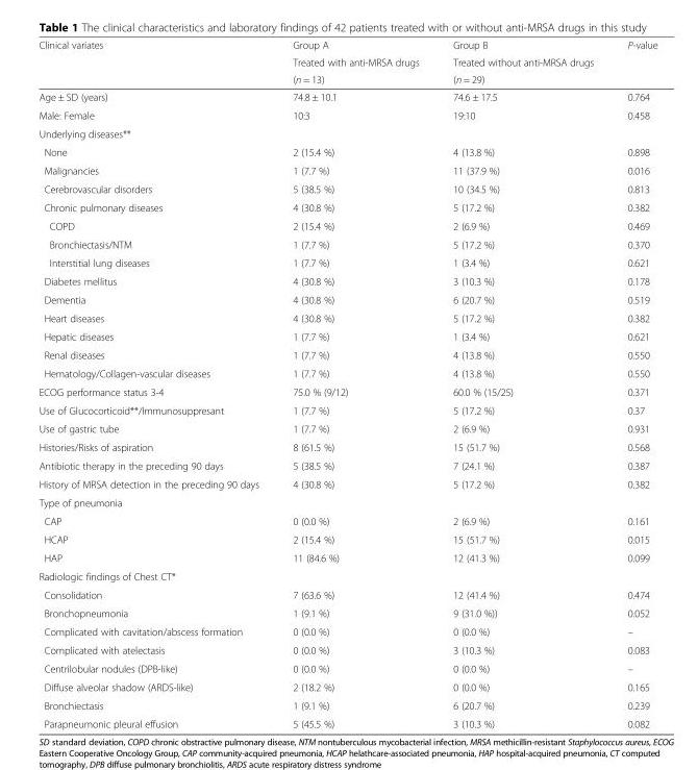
<table><thead><tr><td rowspan="3">Clinical variates</td><td rowspan="3">Group A Treated with anti-MRSA drugs (n = 13)</td><td rowspan="3">Group B Treated without anti-MRSA drugs (n = 29)</td><td rowspan="3">P-value</td></tr><tr></tr><tr></tr></thead><tbody><tr><td>Age ± SD (years)</td><td>74.8 ± 10.1</td><td>74.6 ± 17.5</td><td>0.764</td></tr><tr><td>Male: Female</td><td>10:3</td><td>19:10</td><td>0.458</td></tr><tr><td colspan="4">Underlying diseases**</td></tr><tr><td>None</td><td>2 (15.4 %)</td><td>4 (13.8 %)</td><td>0.898</td></tr><tr><td>Malignancies</td><td>1 (7.7 %)</td><td>11 (37.9 %)</td><td>0.016</td></tr><tr><td>Cerebrovascular disorders</td><td>5 (38.5 %)</td><td>10 (34.5 %)</td><td>0.813</td></tr><tr><td>Chronic pulmonary diseases</td><td>4 (30.8 %)</td><td>5 (17.2 %)</td><td>0.382</td></tr><tr><td>COPD</td><td>2 (15.4 %)</td><td>2 (6.9 %)</td><td>0.469</td></tr><tr><td>Bronchiectasis/NTM</td><td>1 (7.7 %)</td><td>5 (17.2 %)</td><td>0.370</td></tr><tr><td>Interstitial lung diseases</td><td>1 (7.7 %)</td><td>1 (3.4 %)</td><td>0.621</td></tr><tr><td>Diabetes mellitus</td><td>4 (30.8 %)</td><td>3 (10.3 %)</td><td>0.178</td></tr><tr><td>Dementia</td><td>4 (30.8 %)</td><td>6 (20.7 %)</td><td>0.519</td></tr><tr><td>Heart diseases</td><td>4 (30.8 %)</td><td>5 (17.2 %)</td><td>0.382</td></tr><tr><td>Hepatic diseases</td><td>1 (7.7 %)</td><td>1 (3.4 %)</td><td>0.621</td></tr><tr><td>Renal diseases</td><td>1 (7.7 %)</td><td>4 (13.8 %)</td><td>0.550</td></tr><tr><td>Hematology/Collagen-vascular diseases</td><td>1 (7.7 %)</td><td>4 (13.8 %)</td><td>0.550</td></tr><tr><td>ECOG performance status 3-4</td><td>75.0 % (9/12)</td><td>60.0 % (15/25)</td><td>0.371</td></tr><tr><td>Use of Glucocorticoid**/Immunosuppresant</td><td>1 (7.7 %)</td><td>5 (17.2 %)</td><td>0.37</td></tr><tr><td>Use of gastric tube</td><td>1 (7.7 %)</td><td>2 (6.9 %)</td><td>0.931</td></tr><tr><td>Histories/Risks of aspiration</td><td>8 (61.5 %)</td><td>15 (51.7 %)</td><td>0.568</td></tr><tr><td>Antibiotic therapy in the preceding 90 days</td><td>5 (38.5 %)</td><td>7 (24.1 %)</td><td>0.387</td></tr><tr><td>History of MRSA detection in the preceding 90 days</td><td>4 (30.8 %)</td><td>5 (17.2 %)</td><td>0.382</td></tr><tr><td colspan="4">Type of pneumonia</td></tr><tr><td>CAP</td><td>0 (0.0 %)</td><td>2 (6.9 %)</td><td>0.161</td></tr><tr><td>HCAP</td><td>2 (15.4 %)</td><td>15 (51.7 %)</td><td>0.015</td></tr><tr><td>HAP</td><td>11 (84.6 %)</td><td>12 (41.3 %)</td><td>0.099</td></tr><tr><td colspan="4">Radiologic findings of Chest CT*</td></tr><tr><td>Consolidation</td><td>7 (63.6 %)</td><td>12 (41.4 %)</td><td>0.474</td></tr><tr><td>Bronchopneumonia</td><td>1 (9.1 %)</td><td>9 (31.0 %))</td><td>0.052</td></tr><tr><td>Complicated with cavitation/abscess formation</td><td>0 (0.0 %)</td><td>0 (0.0 %)</td><td>–</td></tr><tr><td>Complicated with atelectasis</td><td>0 (0.0 %)</td><td>3 (10.3 %)</td><td>0.083</td></tr><tr><td>Centrilobular nodules (DPB-like)</td><td>0 (0.0 %)</td><td>0 (0.0 %)</td><td>–</td></tr><tr><td>Diffuse alveolar shadow (ARDS-like)</td><td>2 (18.2 %)</td><td>0 (0.0 %)</td><td>0.165</td></tr><tr><td>Bronchiectasis</td><td>1 (9.1 %)</td><td>6 (20.7 %)</td><td>0.239</td></tr><tr><td>Parapneumonic pleural effusion</td><td>5 (45.5 %)</td><td>3 (10.3 %)</td><td>0.082</td></tr></tbody></table>